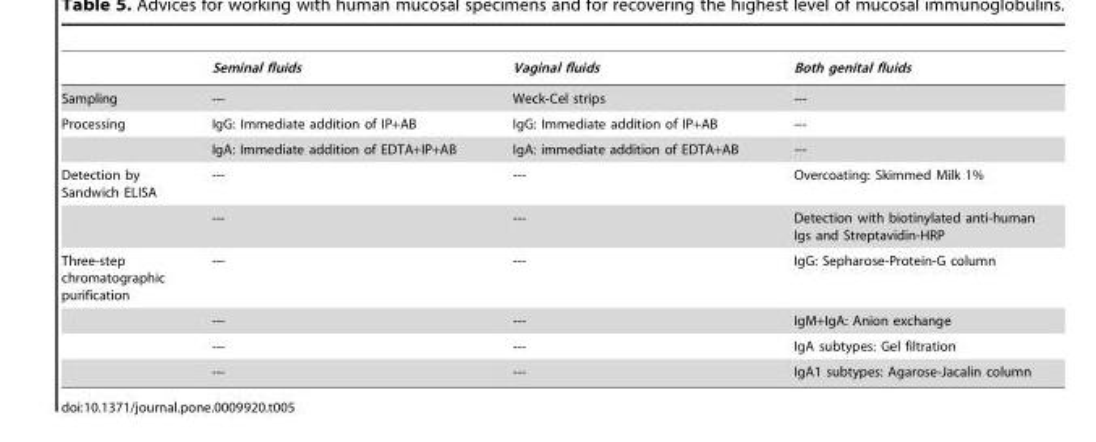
<table><thead><tr><td></td><td>Seminal fluids</td><td>Vaginal fluids</td><td>Both genital fluids</td></tr></thead><tbody><tr><td>Sampling</td><td>---</td><td>Weck-Cel strips</td><td>---</td></tr><tr><td rowspan="2">Processing</td><td>IgG: Immediate addition of IP+AB</td><td>IgG: Immediate addition of IP+AB</td><td>---</td></tr><tr><td>IgA: Immediate addition of EDTA+IP+AB</td><td>IgA: immediate addition of EDTA+AB</td><td>---</td></tr><tr><td rowspan="2">Detection by Sandwich ELISA</td><td>---</td><td>---</td><td>Overcoating: Skimmed Milk 1%</td></tr><tr><td>---</td><td>---</td><td>Detection with biotinylated anti-human Igs and Streptavidin-HRP</td></tr><tr><td rowspan="4">Three-step chromatographic purification</td><td>---</td><td>---</td><td>IgG: Sepharose-Protein-G column</td></tr><tr><td>---</td><td>---</td><td>IgM+IgA: Anion exchange</td></tr><tr><td>---</td><td>---</td><td>IgA subtypes: Gel filtration</td></tr><tr><td>---</td><td>---</td><td>IgA1 subtypes: Agarose-Jacalin column</td></tr></tbody></table>